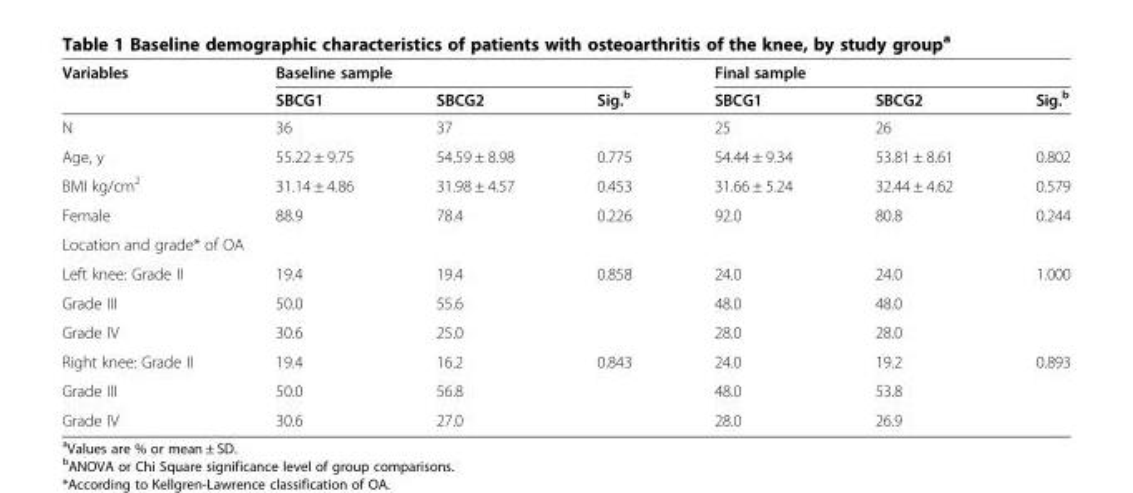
<table><thead><tr><td rowspan="2">Variables</td><td colspan="3">Baseline sample</td><td colspan="3">Final sample</td></tr><tr><td>SBCG1</td><td>SBCG2</td><td>Sig.<sup>b</sup></td><td>SBCG1</td><td>SBCG2</td><td>Sig.<sup>b</sup></td></tr></thead><tbody><tr><td>N</td><td>36</td><td>37</td><td></td><td>25</td><td>26</td><td></td></tr><tr><td>Age, y</td><td>55.22 ± 9.75</td><td>54.59 ± 8.98</td><td>0.775</td><td>54.44 ± 9.34</td><td>53.81 ± 8.61</td><td>0.802</td></tr><tr><td>BMI kg/cm<sup>2</sup></td><td>31.14 ± 4.86</td><td>31.98 ± 4.57</td><td>0.453</td><td>31.66 ± 5.24</td><td>32.44 ± 4.62</td><td>0.579</td></tr><tr><td>Female</td><td>88.9</td><td>78.4</td><td>0.226</td><td>92.0</td><td>80.8</td><td>0.244</td></tr><tr><td colspan="7">Location and grade* of OA</td></tr><tr><td>Left knee: Grade II</td><td>19.4</td><td>19.4</td><td>0.858</td><td>24.0</td><td>24.0</td><td>1.000</td></tr><tr><td>Grade III</td><td>50.0</td><td>55.6</td><td></td><td>48.0</td><td>48.0</td><td></td></tr><tr><td>Grade IV</td><td>30.6</td><td>25.0</td><td></td><td>28.0</td><td>28.0</td><td></td></tr><tr><td>Right knee: Grade II</td><td>19.4</td><td>16.2</td><td>0.843</td><td>24.0</td><td>19.2</td><td>0.893</td></tr><tr><td>Grade III</td><td>50.0</td><td>56.8</td><td></td><td>48.0</td><td>53.8</td><td></td></tr><tr><td>Grade IV</td><td>30.6</td><td>27.0</td><td></td><td>28.0</td><td>26.9</td><td></td></tr></tbody></table>